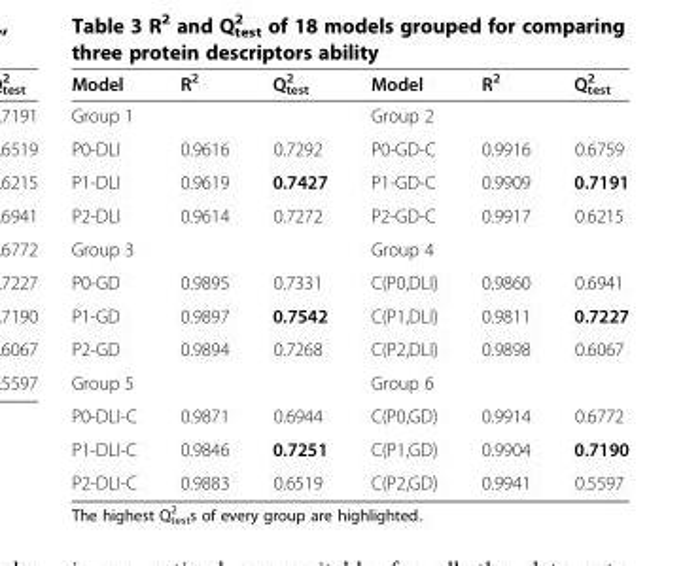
<table><thead><tr><td>Model</td><td>R<sup>2</sup></td><td>Q<sup>2</sup> <sub>test</sub></td><td>Model</td><td>R<sup>2</sup></td><td>Q<sup>2</sup> <sub>test</sub></td></tr></thead><tbody><tr><td>Group 1</td><td></td><td></td><td>Group 2</td><td></td><td></td></tr><tr><td>P0-DLI</td><td>0.9616</td><td>0.7292</td><td>P0-GD-C</td><td>0.9916</td><td>0.6759</td></tr><tr><td>P1-DLI</td><td>0.9619</td><td>0.7427</td><td>P1-GD-C</td><td>0.9909</td><td>0.7191</td></tr><tr><td>P2-DLI</td><td>0.9614</td><td>0.7272</td><td>P2-GD-C</td><td>0.9917</td><td>0.6215</td></tr><tr><td>Group 3</td><td></td><td></td><td>Group 4</td><td></td><td></td></tr><tr><td>P0-GD</td><td>0.9895</td><td>0.7331</td><td>C(P0,DLI)</td><td>0.9860</td><td>0.6941</td></tr><tr><td>P1-GD</td><td>0.9897</td><td>0.7542</td><td>C(P1,DLI)</td><td>0.9811</td><td>0.7227</td></tr><tr><td>P2-GD</td><td>0.9894</td><td>0.7268</td><td>C(P2,DLI)</td><td>0.9898</td><td>0.6067</td></tr><tr><td>Group 5</td><td></td><td></td><td>Group 6</td><td></td><td></td></tr><tr><td>P0-DLI-C</td><td>0.9871</td><td>0.6944</td><td>C(P0,GD)</td><td>0.9914</td><td>0.6772</td></tr><tr><td>P1-DLI-C</td><td>0.9846</td><td>0.7251</td><td>C(P1,GD)</td><td>0.9904</td><td>0.7190</td></tr><tr><td>P2-DLI-C</td><td>0.9883</td><td>0.6519</td><td>C(P2,GD)</td><td>0.9941</td><td>0.5597</td></tr></tbody></table>